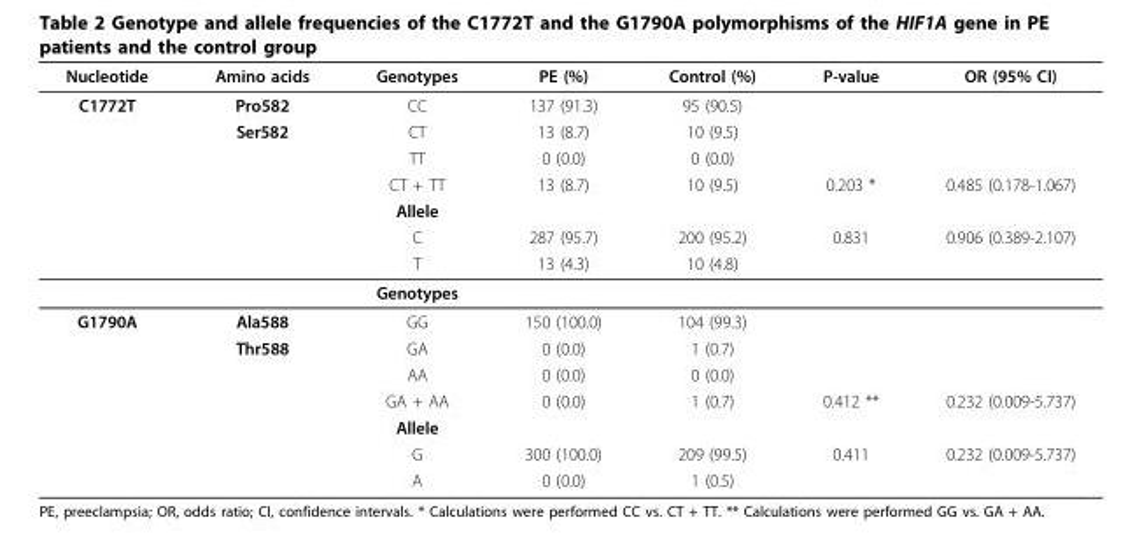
<table><thead><tr><td>Nucleotide</td><td>Amino acids</td><td>Genotypes</td><td>PE (%)</td><td>Control (%)</td><td>P-value</td><td>OR (95% CI)</td></tr></thead><tbody><tr><td rowspan="8">C1772T</td><td>Pro582</td><td>CC</td><td>137 (91.3)</td><td>95 (90.5)</td><td></td><td></td></tr><tr><td>Ser582</td><td>CT</td><td>13 (8.7)</td><td>10 (9.5)</td><td></td><td></td></tr><tr><td></td><td>TT</td><td>0 (0.0)</td><td>0 (0.0)</td><td></td><td></td></tr><tr><td></td><td>CT + TT</td><td>13 (8.7)</td><td>10 (9.5)</td><td>0.203 *</td><td>0.485 (0.178-1.067)</td></tr><tr><td></td><td>Allele</td><td></td><td></td><td></td><td></td></tr><tr><td></td><td>C</td><td>287 (95.7)</td><td>200 (95.2)</td><td>0.831</td><td>0.906 (0.389-2.107)</td></tr><tr><td></td><td>T</td><td>13 (4.3)</td><td>10 (4.8)</td><td></td><td></td></tr><tr><td></td><td>Genotypes</td><td></td><td></td><td></td><td></td></tr><tr><td rowspan="7">G1790A</td><td>Ala588</td><td>GG</td><td>150 (100.0)</td><td>104 (99.3)</td><td></td><td></td></tr><tr><td>Thr588</td><td>GA</td><td>0 (0.0)</td><td>1 (0.7)</td><td></td><td></td></tr><tr><td></td><td>AA</td><td>0 (0.0)</td><td>0 (0.0)</td><td></td><td></td></tr><tr><td></td><td>GA + AA</td><td>0 (0.0)</td><td>1 (0.7)</td><td>0.412 **</td><td>0.232 (0.009-5.737)</td></tr><tr><td></td><td>Allele</td><td></td><td></td><td></td><td></td></tr><tr><td></td><td>G</td><td>300 (100.0)</td><td>209 (99.5)</td><td>0.411</td><td>0.232 (0.009-5.737)</td></tr><tr><td></td><td>A</td><td>0 (0.0)</td><td>1 (0.5)</td><td></td><td></td></tr></tbody></table>